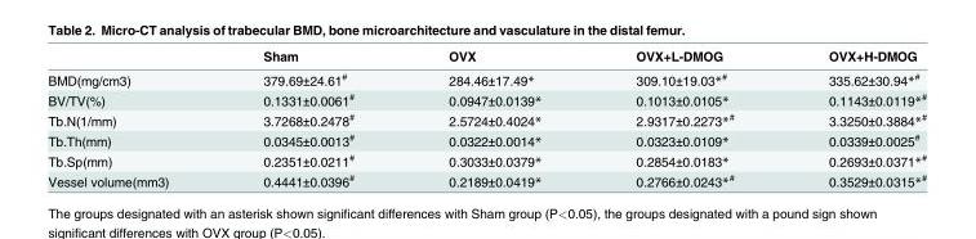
<table><thead><tr><td></td><td>Sham</td><td>OVX</td><td>OVX+L-DMOG</td><td>OVX+H-DMOG</td></tr></thead><tbody><tr><td>BMD(mg/cm3)</td><td>379.69±24.61<sup>#</sup></td><td>284.46±17.49*</td><td>309.10±19.03*<sup>#</sup></td><td>335.62±30.94*<sup>#</sup></td></tr><tr><td>BV/TV(%)</td><td>0.1331±0.0061<sup>#</sup></td><td>0.0947±0.0139*</td><td>0.1013±0.0105*</td><td>0.1143±0.0119*<sup>#</sup></td></tr><tr><td>Tb.N(1/mm)</td><td>3.7268±0.2478<sup>#</sup></td><td>2.5724±0.4024*</td><td>2.9317±0.2273*<sup>#</sup></td><td>3.3250±0.3884*<sup>#</sup></td></tr><tr><td>Tb.Th(mm)</td><td>0.0345±0.0013<sup>#</sup></td><td>0.0322±0.0014*</td><td>0.0323±0.0109*</td><td>0.0339±0.0025<sup>#</sup></td></tr><tr><td>Tb.Sp(mm)</td><td>0.2351±0.0211<sup>#</sup></td><td>0.3033±0.0379*</td><td>0.2854±0.0183*</td><td>0.2693±0.0371*<sup>#</sup></td></tr><tr><td>Vessel volume(mm3)</td><td>0.4441±0.0396<sup>#</sup></td><td>0.2189±0.0419*</td><td>0.2766±0.0243*<sup>#</sup></td><td>0.3529±0.0315*<sup>#</sup></td></tr></tbody></table>